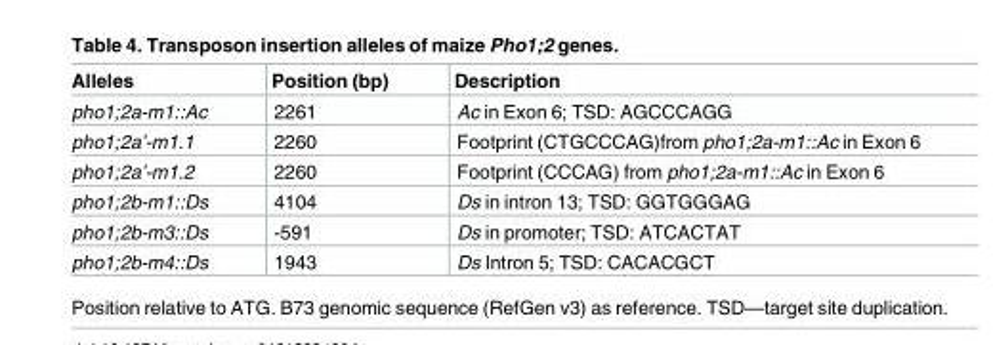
<table><thead><tr><td>Alleles</td><td>Position (bp)</td><td>Description</td></tr></thead><tbody><tr><td>pho1;2a-m1::Ac</td><td>2261</td><td>Ac in Exon 6; TSD: AGCCCAGG</td></tr><tr><td>pho1;2a’-m1.1</td><td>2260</td><td>Footprint (CTGCCCAG)from pho1;2a-m1::Ac in Exon 6</td></tr><tr><td>pho1;2a’-m1.2</td><td>2260</td><td>Footprint (CCCAG) from pho1;2a-m1::Ac in Exon 6</td></tr><tr><td>pho1;2b-m1::Ds</td><td>4104</td><td>Ds in intron 13; TSD: GGTGGGAG</td></tr><tr><td>pho1;2b-m3::Ds</td><td>-591</td><td>Ds in promoter; TSD: ATCACTAT</td></tr><tr><td>pho1;2b-m4::Ds</td><td>1943</td><td>Ds Intron 5; TSD: CACACGCT</td></tr></tbody></table>